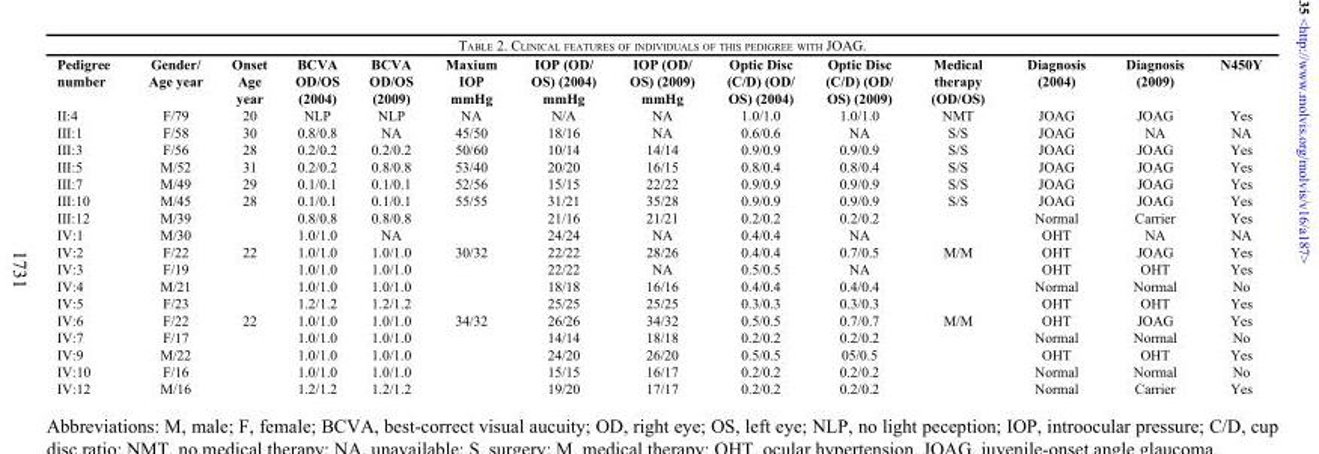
<table><thead><tr><td>Pedigree number</td><td>Gender/ Age year</td><td>Onset Age year</td><td>BCVA OD/OS (2004)</td><td>BCVA OD/OS (2009)</td><td>Maxium IOP mmHg</td><td>IOP (OD/ OS) (2004) mmHg</td><td>IOP (OD/ OS) (2009) mmHg</td><td>Optic Disc (C/D) (OD/ OS) (2004)</td><td>Optic Disc (C/D) (OD/ OS) (2009)</td><td>Medical therapy (OD/OS)</td><td>Diagnosis (2004)</td><td>Diagnosis (2009)</td><td>N450Y</td></tr></thead><tbody><tr><td>II:4</td><td>F/79</td><td>20</td><td>NLP</td><td>NLP</td><td>NA</td><td>N/A</td><td>NA</td><td>1.0/1.0</td><td>1.0/1.0</td><td>NMT</td><td>JOAG</td><td>JOAG</td><td>Yes</td></tr><tr><td>III:1</td><td>F/58</td><td>30</td><td>0.8/0.8</td><td>NA</td><td>45/50</td><td>18/16</td><td>NA</td><td>0.6/0.6</td><td>NA</td><td>S/S</td><td>JOAG</td><td>NA</td><td>NA</td></tr><tr><td>III:3</td><td>F/56</td><td>28</td><td>0.2/0.2</td><td>0.2/0.2</td><td>50/60</td><td>10/14</td><td>14/14</td><td>0.9/0.9</td><td>0.9/0.9</td><td>S/S</td><td>JOAG</td><td>JOAG</td><td>Yes</td></tr><tr><td>III:5</td><td>M/52</td><td>31</td><td>0.2/0.2</td><td>0.8/0.8</td><td>53/40</td><td>20/20</td><td>16/15</td><td>0.8/0.4</td><td>0.8/0.4</td><td>S/S</td><td>JOAG</td><td>JOAG</td><td>Yes</td></tr><tr><td>III:7</td><td>M/49</td><td>29</td><td>0.1/0.1</td><td>0.1/0.1</td><td>52/56</td><td>15/15</td><td>22/22</td><td>0.9/0.9</td><td>0.9/0.9</td><td>S/S</td><td>JOAG</td><td>JOAG</td><td>Yes</td></tr><tr><td>III:10</td><td>M/45</td><td>28</td><td>0.1/0.1</td><td>0.1/0.1</td><td>55/55</td><td>31/21</td><td>35/28</td><td>0.9/0.9</td><td>0.9/0.9</td><td>S/S</td><td>JOAG</td><td>JOAG</td><td>Yes</td></tr><tr><td>III:12</td><td>M/39</td><td></td><td>0.8/0.8</td><td>0.8/0.8</td><td></td><td>21/16</td><td>21/21</td><td>0.2/0.2</td><td>0.2/0.2</td><td></td><td>Normal</td><td>Carrier</td><td>Yes</td></tr><tr><td>IV:1</td><td>M/30</td><td></td><td>1.0/1.0</td><td>NA</td><td></td><td>24/24</td><td>NA</td><td>0.4/0.4</td><td>NA</td><td></td><td>OHT</td><td>NA</td><td>NA</td></tr><tr><td>IV:2</td><td>F/22</td><td>22</td><td>1.0/1.0</td><td>1.0/1.0</td><td>30/32</td><td>22/22</td><td>28/26</td><td>0.4/0.4</td><td>0.7/0.5</td><td>M/M</td><td>OHT</td><td>JOAG</td><td>Yes</td></tr><tr><td>IV:3</td><td>F/19</td><td></td><td>1.0/1.0</td><td>1.0/1.0</td><td></td><td>22/22</td><td>NA</td><td>0.5/0.5</td><td>NA</td><td></td><td>OHT</td><td>OHT</td><td>Yes</td></tr><tr><td>IV:4</td><td>M/21</td><td></td><td>1.0/1.0</td><td>1.0/1.0</td><td></td><td>18/18</td><td>16/16</td><td>0.4/0.4</td><td>0.4/0.4</td><td></td><td>Normal</td><td>Normal</td><td>No</td></tr><tr><td>IV:5</td><td>F/23</td><td></td><td>1.2/1.2</td><td>1.2/1.2</td><td></td><td>25/25</td><td>25/25</td><td>0.3/0.3</td><td>0.3/0.3</td><td></td><td>OHT</td><td>OHT</td><td>Yes</td></tr><tr><td>IV:6</td><td>F/22</td><td>22</td><td>1.0/1.0</td><td>1.0/1.0</td><td>34/32</td><td>26/26</td><td>34/32</td><td>0.5/0.5</td><td>0.7/0.7</td><td>M/M</td><td>OHT</td><td>JOAG</td><td>Yes</td></tr><tr><td>IV:7</td><td>F/17</td><td></td><td>1.0/1.0</td><td>1.0/1.0</td><td></td><td>14/14</td><td>18/18</td><td>0.2/0.2</td><td>0.2/0.2</td><td></td><td>Normal</td><td>Normal</td><td>No</td></tr><tr><td>IV:9</td><td>M/22</td><td></td><td>1.0/1.0</td><td>1.0/1.0</td><td></td><td>24/20</td><td>26/20</td><td>0.5/0.5</td><td>05/0.5</td><td></td><td>OHT</td><td>OHT</td><td>Yes</td></tr><tr><td>IV:10</td><td>F/16</td><td></td><td>1.0/1.0</td><td>1.0/1.0</td><td></td><td>15/15</td><td>16/17</td><td>0.2/0.2</td><td>0.2/0.2</td><td></td><td>Normal</td><td>Normal</td><td>No</td></tr><tr><td>IV:12</td><td>M/16</td><td></td><td>1.2/1.2</td><td>1.2/1.2</td><td></td><td>19/20</td><td>17/17</td><td>0.2/0.2</td><td>0.2/0.2</td><td></td><td>Normal</td><td>Carrier</td><td>Yes</td></tr></tbody></table>